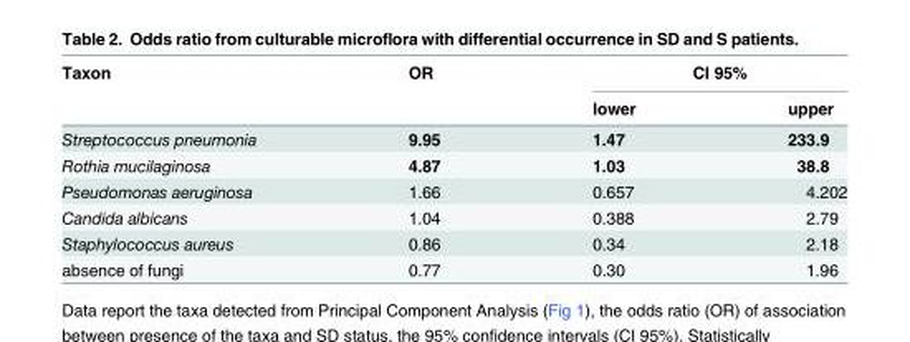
<table><thead><tr><td rowspan="2">Taxon</td><td rowspan="2">OR</td><td colspan="2">CI 95%</td></tr><tr><td>lower</td><td>upper</td></tr></thead><tbody><tr><td>Streptococcus pneumonia</td><td>9.95</td><td>1.47</td><td>233.9</td></tr><tr><td>Rothia mucilaginosa</td><td>4.87</td><td>1.03</td><td>38.8</td></tr><tr><td>Pseudomonas aeruginosa</td><td>1.66</td><td>0.657</td><td>4.202</td></tr><tr><td>Candida albicans</td><td>1.04</td><td>0.388</td><td>2.79</td></tr><tr><td>Staphylococcus aureus</td><td>0.86</td><td>0.34</td><td>2.18</td></tr><tr><td>absence of fungi</td><td>0.77</td><td>0.30</td><td>1.96</td></tr></tbody></table>